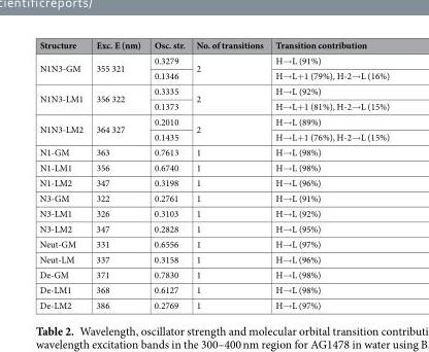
<table><thead><tr><td>Structure</td><td>Exc. E (nm)</td><td>Osc. str.</td><td>No. of transitions</td><td>Transition contribution</td></tr></thead><tbody><tr><td rowspan="2">N1N3-GM</td><td rowspan="2">355 321</td><td>0.3279</td><td rowspan="2">2</td><td>H→L (91%)</td></tr><tr><td>0.1346</td><td>H→L+1 (79%), H-2→L (16%)</td></tr><tr><td rowspan="2">N1N3-LM1</td><td rowspan="2">356 322</td><td>0.3335</td><td rowspan="2">2</td><td>H→L (92%)</td></tr><tr><td>0.1373</td><td>H→L+1 (81%), H-2→L (15%)</td></tr><tr><td rowspan="2">N1N3-LM2</td><td rowspan="2">364 327</td><td>0.2010</td><td rowspan="2">2</td><td>H→L (89%)</td></tr><tr><td>0.1435</td><td>H→L+1 (76%), H-2→L (15%)</td></tr><tr><td>N1-GM</td><td>363</td><td>0.7613</td><td>1</td><td>H→L (98%)</td></tr><tr><td>N1-LM1</td><td>356</td><td>0.6740</td><td>1</td><td>H→L (98%)</td></tr><tr><td>N1-LM2</td><td>347</td><td>0.3198</td><td>1</td><td>H→L (96%)</td></tr><tr><td>N3-GM</td><td>322</td><td>0.2761</td><td>1</td><td>H→L (91%)</td></tr><tr><td>N3-LM1</td><td>326</td><td>0.3103</td><td>1</td><td>H→L (92%)</td></tr><tr><td>N3-LM2</td><td>347</td><td>0.2828</td><td>1</td><td>H→L (95%)</td></tr><tr><td>Neut-GM</td><td>331</td><td>0.6556</td><td>1</td><td>H→L (97%)</td></tr><tr><td>Neut-LM</td><td>337</td><td>0.3158</td><td>1</td><td>H→L (96%)</td></tr><tr><td>De-GM</td><td>371</td><td>0.7830</td><td>1</td><td>H→L (98%)</td></tr><tr><td>De-LM1</td><td>368</td><td>0.6127</td><td>1</td><td>H→L (98%)</td></tr><tr><td>De-LM2</td><td>386</td><td>0.2769</td><td>1</td><td>H→L (97%)</td></tr></tbody></table>